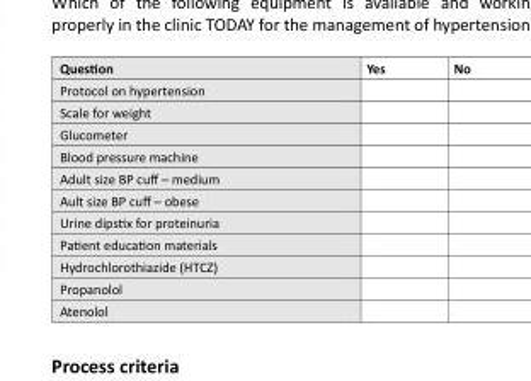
<table><thead><tr><td>Question</td><td>Yes</td><td>No</td></tr></thead><tbody><tr><td colspan="3">Protocol on hypertension</td></tr><tr><td colspan="3">Scale for weight</td></tr><tr><td colspan="3">Glucometer</td></tr><tr><td colspan="3">Blood pressure machine</td></tr><tr><td colspan="3">Adult size BP cuff – medium</td></tr><tr><td colspan="3">Ault size BP cuff – obese</td></tr><tr><td colspan="3">Urine dipstix for proteinuria</td></tr><tr><td colspan="3">Patient education materials</td></tr><tr><td colspan="3">Hydrochlorothiazide (HTCZ)</td></tr><tr><td colspan="3">Propanolol</td></tr><tr><td>Atenolol</td><td></td><td></td></tr></tbody></table>